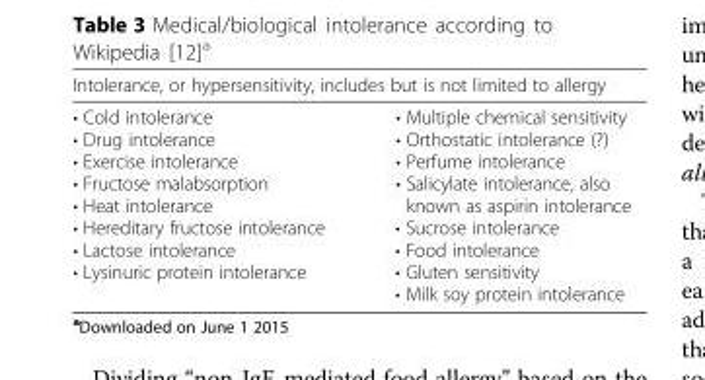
<table><thead><tr><td colspan="2">Intolerance, or hypersensitivity, includes but is not limited to allergy</td></tr><tr><td>• Cold intolerance • Drug intolerance • Exercise intolerance • Fructose malabsorption • Heat intolerance • Hereditary fructose intolerance • Lactose intolerance • Lysinuric protein intolerance</td><td>• Multiple chemical sensitivity • Orthostatic intolerance (?) • Perfume intolerance • Salicylate intolerance, also known as aspirin intolerance • Sucrose intolerance • Food intolerance • Gluten sensitivity • Milk soy protein intolerance</td></tr></thead><tbody></tbody></table>